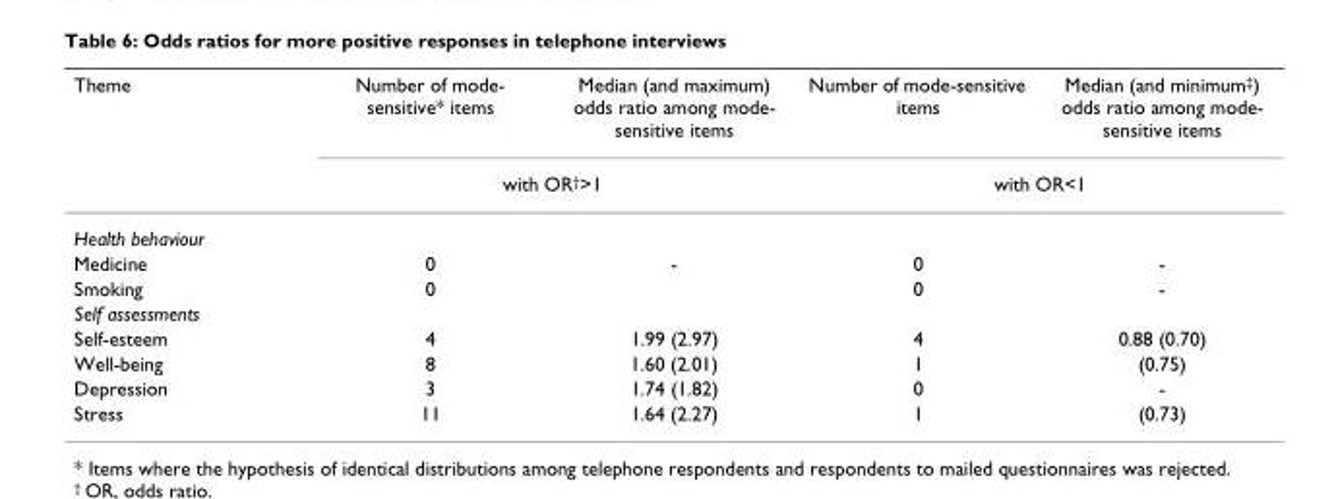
<table><thead><tr><td rowspan="2">Theme</td><td>Number of mode- sensitive* items</td><td>Median (and maximum) odds ratio among mode- sensitive items</td><td>Number of mode-sensitive items</td><td>Median (and minimum<sup>‡</sup>) odds ratio among mode- sensitive items</td></tr><tr><td colspan="2">with OR<sup>†</sup>&gt;1</td><td colspan="2">with OR&lt;1</td></tr></thead><tbody><tr><td colspan="5">Health behaviour</td></tr><tr><td>Medicine</td><td>0</td><td>-</td><td>0</td><td>-</td></tr><tr><td>Smoking</td><td>0</td><td></td><td>0</td><td>-</td></tr><tr><td colspan="5">Self assessments</td></tr><tr><td>Self-esteem</td><td>4</td><td>1.99 (2.97)</td><td>4</td><td>0.88 (0.70)</td></tr><tr><td>Well-being</td><td>8</td><td>1.60 (2.01)</td><td>1</td><td>(0.75)</td></tr><tr><td>Depression</td><td>3</td><td>1.74 (1.82)</td><td>0</td><td>-</td></tr><tr><td>Stress</td><td>11</td><td>1.64 (2.27)</td><td>1</td><td>(0.73)</td></tr></tbody></table>